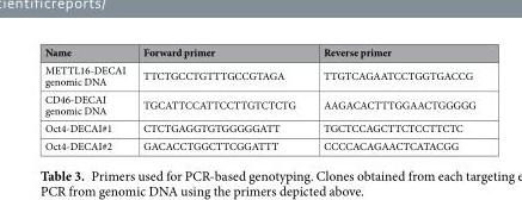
<table><thead><tr><td>Name</td><td>Forward primer</td><td>Reverse primer</td></tr></thead><tbody><tr><td>METTL16-DECAI genomic DNA</td><td>TTCTGCCTGTTTGCCGTAGA</td><td>TTGTCAGAATCCTGGTGACCG</td></tr><tr><td>CD46-DECAI genomic DNA</td><td>TGCATTCCATTCCTTGTCTCTG</td><td>AAGACACTTTGGAACTGGGGG</td></tr><tr><td>Oct4-DECAI#1</td><td>CTCTGAGGTGTGGGGGATT</td><td>TGCTCCAGCTTCTCCTTCTC</td></tr><tr><td>Oct4-DECAI#2</td><td>GACACCTGGCTTCGGATTT</td><td>CCCCACAGAACTCATACGG</td></tr></tbody></table>